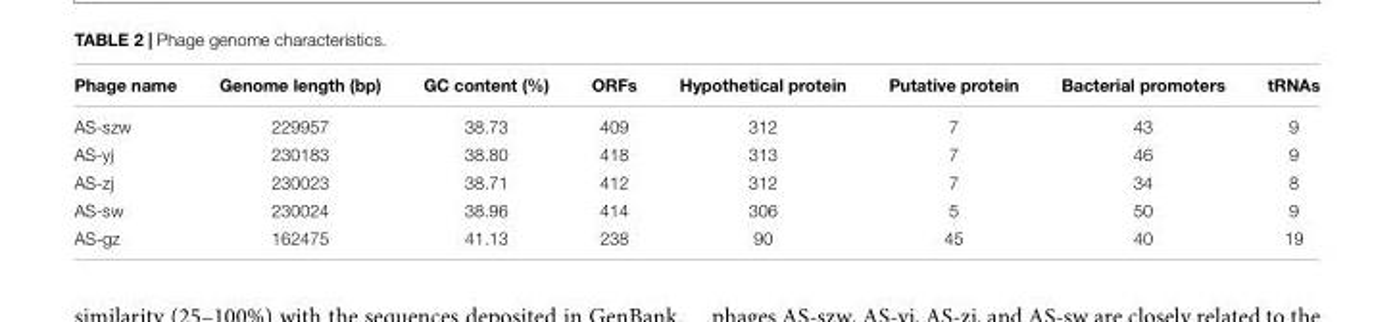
<table><thead><tr><td>Phage name</td><td>Genome length (bp)</td><td>GC content (%)</td><td>ORFs</td><td>Hypothetical protein</td><td>Putative protein</td><td>Bacterial promoters</td><td>tRNAs</td></tr></thead><tbody><tr><td>AS-szw</td><td>229957</td><td>38.73</td><td>409</td><td>312</td><td>7</td><td>43</td><td>9</td></tr><tr><td>AS-yj</td><td>230183</td><td>38.80</td><td>418</td><td>313</td><td>7</td><td>46</td><td>9</td></tr><tr><td>AS-zj</td><td>230023</td><td>38.71</td><td>412</td><td>312</td><td>7</td><td>34</td><td>8</td></tr><tr><td>AS-sw</td><td>230024</td><td>38.96</td><td>414</td><td>306</td><td>5</td><td>50</td><td>9</td></tr><tr><td>AS-gz</td><td>162475</td><td>41.13</td><td>238</td><td>90</td><td>45</td><td>40</td><td>19</td></tr></tbody></table>